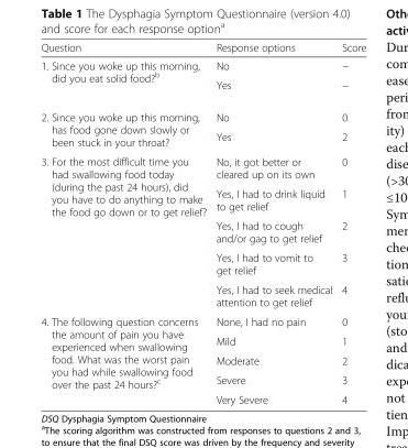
<table><thead><tr><td>Question</td><td>Response options</td><td>Score</td></tr></thead><tbody><tr><td rowspan="2">1. Since you woke up this morning, did you eat solid food?<sup>b</sup></td><td>No</td><td>−</td></tr><tr><td>Yes</td><td>−</td></tr><tr><td rowspan="2">2. Since you woke up this morning, has food gone down slowly or been stuck in your throat?</td><td>No</td><td>0</td></tr><tr><td>Yes</td><td>2</td></tr><tr><td rowspan="5">3. For the most difficult time you had swallowing food today (during the past 24 hours), did you have to do anything to make the food go down or to get relief?</td><td>No, it got better or cleared up on its own</td><td>0</td></tr><tr><td>Yes, I had to drink liquid to get relief</td><td>1</td></tr><tr><td>Yes, I had to cough and/or gag to get relief</td><td>2</td></tr><tr><td>Yes, I had to vomit to get relief</td><td>3</td></tr><tr><td>Yes, I had to seek medical attention to get relief</td><td>4</td></tr><tr><td rowspan="5">4. The following question concerns the amount of pain you have experienced when swallowing food. What was the worst pain you had while swallowing food over the past 24 hours?<sup>c</sup></td><td>None, I had no pain</td><td>0</td></tr><tr><td>Mild</td><td>1</td></tr><tr><td>Moderate</td><td>2</td></tr><tr><td>Severe</td><td>3</td></tr><tr><td>Very Severe</td><td>4</td></tr></tbody></table>